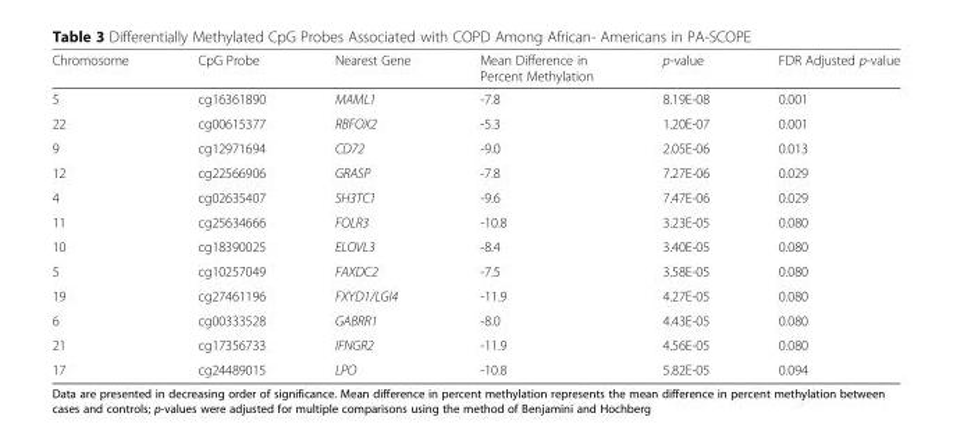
<table><thead><tr><td>Chromosome</td><td>CpG Probe</td><td>Nearest Gene</td><td>Mean Difference in Percent Methylation</td><td>p-value</td><td>FDR Adjusted p-value</td></tr></thead><tbody><tr><td>5</td><td>cg16361890</td><td>MAML1</td><td>-7.8</td><td>8.19E-08</td><td>0.001</td></tr><tr><td>22</td><td>cg00615377</td><td>RBFOX2</td><td>-5.3</td><td>1.20E-07</td><td>0.001</td></tr><tr><td>9</td><td>cg12971694</td><td>CD72</td><td>-9.0</td><td>2.05E-06</td><td>0.013</td></tr><tr><td>12</td><td>cg22566906</td><td>GRASP</td><td>-7.8</td><td>7.27E-06</td><td>0.029</td></tr><tr><td>4</td><td>cg02635407</td><td>SH3TC1</td><td>-9.6</td><td>7.47E-06</td><td>0.029</td></tr><tr><td>11</td><td>cg25634666</td><td>FOLR3</td><td>-10.8</td><td>3.23E-05</td><td>0.080</td></tr><tr><td>10</td><td>cg18390025</td><td>ELOVL3</td><td>-8.4</td><td>3.40E-05</td><td>0.080</td></tr><tr><td>5</td><td>cg10257049</td><td>FAXDC2</td><td>-7.5</td><td>3.58E-05</td><td>0.080</td></tr><tr><td>19</td><td>cg27461196</td><td>FXYD1/LGI4</td><td>-11.9</td><td>4.27E-05</td><td>0.080</td></tr><tr><td>6</td><td>cg00333528</td><td>GABRR1</td><td>-8.0</td><td>4.43E-05</td><td>0.080</td></tr><tr><td>21</td><td>cg17356733</td><td>IFNGR2</td><td>-11.9</td><td>4.56E-05</td><td>0.080</td></tr><tr><td>17</td><td>cg24489015</td><td>LPO</td><td>-10.8</td><td>5.82E-05</td><td>0.094</td></tr></tbody></table>